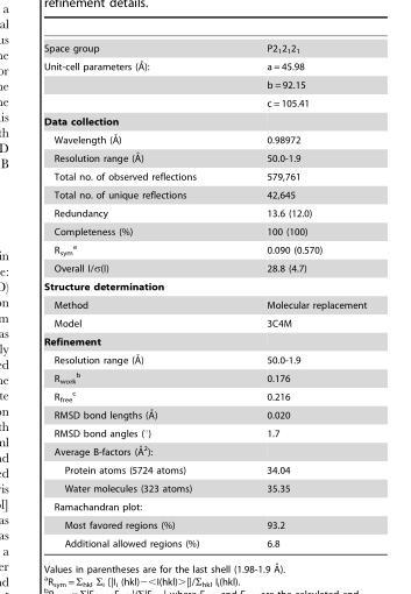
<table><tbody><tr><td>Space group</td><td>P2<sub>1</sub>2<sub>1</sub>2<sub>1</sub></td></tr><tr><td rowspan="3">Unit-cell parameters (A˚):</td><td>a = 45.98</td></tr><tr><td>b = 92.15</td></tr><tr><td>c = 105.41</td></tr><tr><td colspan="2">Data collection</td></tr><tr><td>Wavelength (A˚)</td><td>0.98972</td></tr><tr><td>Resolution range (A˚)</td><td>50.0-1.9</td></tr><tr><td>Total no. of observed reflections</td><td>579,761</td></tr><tr><td>Total no. of unique reflections</td><td>42,645</td></tr><tr><td>Redundancy</td><td>13.6 (12.0)</td></tr><tr><td>Completeness (%)</td><td>100 (100)</td></tr><tr><td>R<sub>sym</sub> a</td><td>0.090 (0.570)</td></tr><tr><td>Overall I/σ(I)</td><td>28.8 (4.7)</td></tr><tr><td colspan="2">Structure determination</td></tr><tr><td>Method</td><td>Molecular replacement</td></tr><tr><td>Model</td><td>3C4M</td></tr><tr><td colspan="2">Refinement</td></tr><tr><td>Resolution range (A˚)</td><td>50.0-1.9</td></tr><tr><td>R<sub>work</sub> b</td><td>0.176</td></tr><tr><td>R<sub>free</sub> c</td><td>0.216</td></tr><tr><td>RMSD bond lengths (A˚)</td><td>0.020</td></tr><tr><td>RMSD bond angles (°)</td><td>1.7</td></tr><tr><td colspan="2">Average B-factors (A˚2):</td></tr><tr><td>Protein atoms (5724 atoms)</td><td>34.04</td></tr><tr><td>Water molecules (323 atoms)</td><td>35.35</td></tr><tr><td colspan="2">Ramachandran plot:</td></tr><tr><td>Most favored regions (%)</td><td>93.2</td></tr><tr><td>Additional allowed regions (%)</td><td>6.8</td></tr></tbody></table>